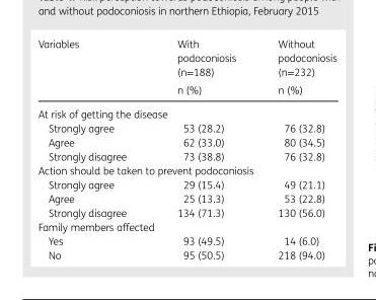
<table><thead><tr><td rowspan="2">Variables</td><td rowspan="2">With podoconiosis (n=188) n (%)</td><td rowspan="2">Without podoconiosis (n=232) n (%)</td></tr><tr></tr></thead><tbody><tr><td colspan="3">At risk of getting the disease</td></tr><tr><td>Strongly agree</td><td>53 (28.2)</td><td>76 (32.8)</td></tr><tr><td>Agree</td><td>62 (33.0)</td><td>80 (34.5)</td></tr><tr><td>Strongly disagree</td><td>73 (38.8)</td><td>76 (32.8)</td></tr><tr><td colspan="3">Action should be taken to prevent podoconiosis</td></tr><tr><td>Strongly agree</td><td>29 (15.4)</td><td>49 (21.1)</td></tr><tr><td>Agree</td><td>25 (13.3)</td><td>53 (22.8)</td></tr><tr><td>Strongly disagree</td><td>134 (71.3)</td><td>130 (56.0)</td></tr><tr><td colspan="3">Family members affected</td></tr><tr><td>Yes</td><td>93 (49.5)</td><td>14 (6.0)</td></tr><tr><td>No</td><td>95 (50.5)</td><td>218 (94.0)</td></tr></tbody></table>